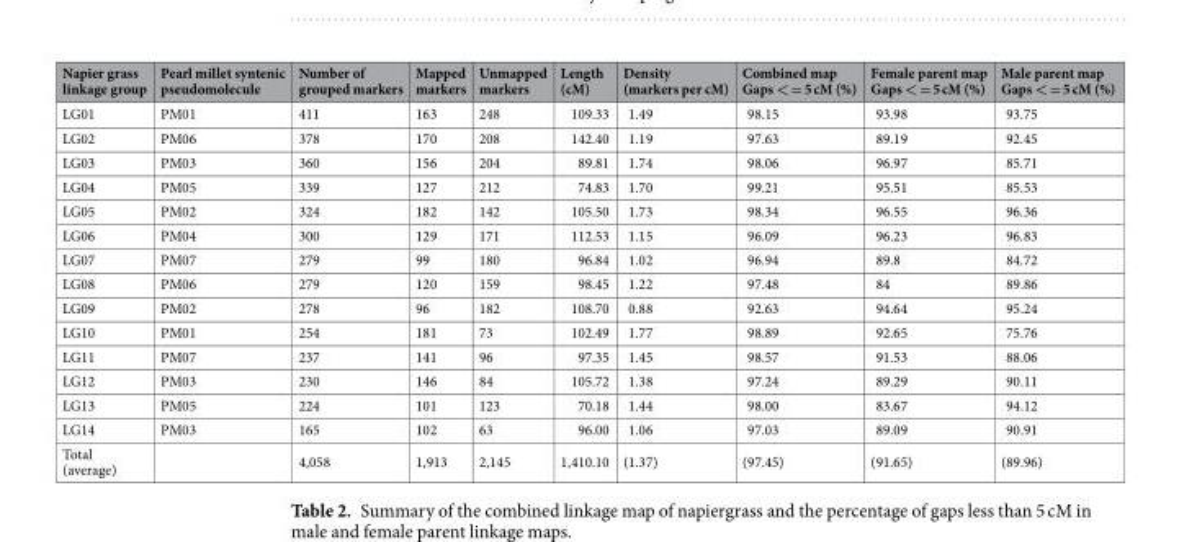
<table><thead><tr><td>Napier grass linkage group</td><td>Pearl millet syntenic pseudomolecule</td><td>Number of grouped markers</td><td>Mapped markers</td><td>Unmapped markers</td><td>Length (cM)</td><td>Density (markers per cM)</td><td>Combined map Gaps &lt; = 5 cM (%)</td><td>Female parent map Gaps &lt; = 5 cM (%)</td><td>Male parent map Gaps &lt; = 5 cM (%)</td></tr></thead><tbody><tr><td>LG01</td><td>PM01</td><td>411</td><td>163</td><td>248</td><td>109.33</td><td>1.49</td><td>98.15</td><td>93.98</td><td>93.75</td></tr><tr><td>LG02</td><td>PM06</td><td>378</td><td>170</td><td>208</td><td>142.40</td><td>1.19</td><td>97.63</td><td>89.19</td><td>92.45</td></tr><tr><td>LG03</td><td>PM03</td><td>360</td><td>156</td><td>204</td><td>89.81</td><td>1.74</td><td>98.06</td><td>96.97</td><td>85.71</td></tr><tr><td>LG04</td><td>PM05</td><td>339</td><td>127</td><td>212</td><td>74.83</td><td>1.70</td><td>99.21</td><td>95.51</td><td>85.53</td></tr><tr><td>LG05</td><td>PM02</td><td>324</td><td>182</td><td>142</td><td>105.50</td><td>1.73</td><td>98.34</td><td>96.55</td><td>96.36</td></tr><tr><td>LG06</td><td>PM04</td><td>300</td><td>129</td><td>171</td><td>112.53</td><td>1.15</td><td>96.09</td><td>96.23</td><td>96.83</td></tr><tr><td>LG07</td><td>PM07</td><td>279</td><td>99</td><td>180</td><td>96.84</td><td>1.02</td><td>96.94</td><td>89.8</td><td>84.72</td></tr><tr><td>LG08</td><td>PM06</td><td>279</td><td>120</td><td>159</td><td>98.45</td><td>1.22</td><td>97.48</td><td>84</td><td>89.86</td></tr><tr><td>LG09</td><td>PM02</td><td>278</td><td>96</td><td>182</td><td>108.70</td><td>0.88</td><td>92.63</td><td>94.64</td><td>95.24</td></tr><tr><td>LG10</td><td>PM01</td><td>254</td><td>181</td><td>73</td><td>102.49</td><td>1.77</td><td>98.89</td><td>92.65</td><td>75.76</td></tr><tr><td>LG11</td><td>PM07</td><td>237</td><td>141</td><td>96</td><td>97.35</td><td>1.45</td><td>98.57</td><td>91.53</td><td>88.06</td></tr><tr><td>LG12</td><td>PM03</td><td>230</td><td>146</td><td>84</td><td>105.72</td><td>1.38</td><td>97.24</td><td>89.29</td><td>90.11</td></tr><tr><td>LG13</td><td>PM05</td><td>224</td><td>101</td><td>123</td><td>70.18</td><td>1.44</td><td>98.00</td><td>83.67</td><td>94.12</td></tr><tr><td>LG14</td><td>PM03</td><td>165</td><td>102</td><td>63</td><td>96.00</td><td>1.06</td><td>97.03</td><td>89.09</td><td>90.91</td></tr><tr><td>Total (average)</td><td></td><td>4,058</td><td>1,913</td><td>2,145</td><td>1,410.10</td><td>(1.37)</td><td>(97.45)</td><td>(91.65)</td><td>(89.96)</td></tr></tbody></table>